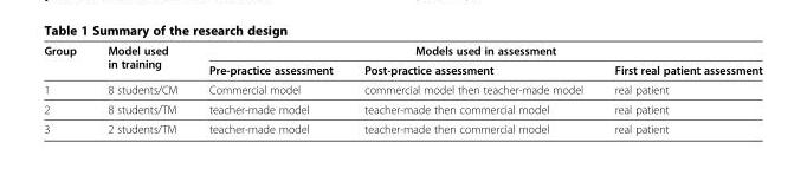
<table><thead><tr><td rowspan="2">Group</td><td rowspan="2">Model used in training</td><td colspan="3">Models used in assessment</td></tr><tr><td>Pre-practice assessment</td><td>Post-practice assessment</td><td>First real patient assessment</td></tr></thead><tbody><tr><td>1</td><td>8 students/CM</td><td>Commercial model</td><td>commercial model then teacher-made model</td><td>real patient</td></tr><tr><td>2</td><td>8 students/TM</td><td>teacher-made model</td><td>teacher-made then commercial model</td><td>real patient</td></tr><tr><td>3</td><td>2 students/TM</td><td>teacher-made model</td><td>teacher-made then commercial model</td><td>real patient</td></tr></tbody></table>